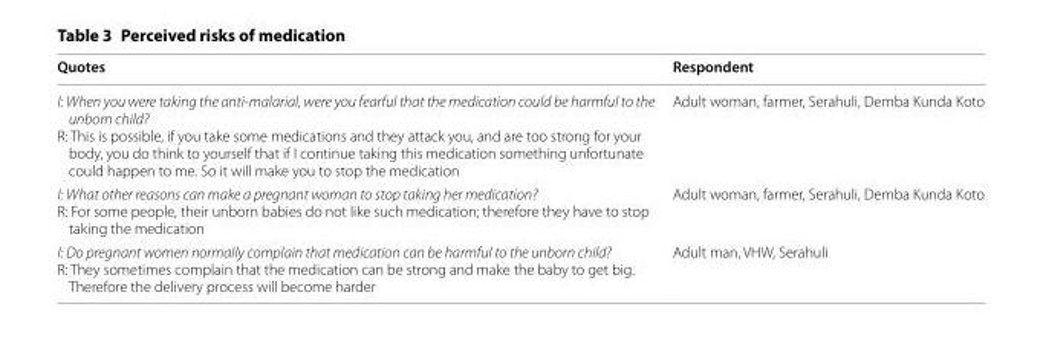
<table><thead><tr><td>Quotes</td><td>Respondent</td></tr></thead><tbody><tr><td>I: When you were taking the anti-malarial, were you fearful that the medication could be harmful to the unborn child? R: This is possible, if you take some medications and they attack you, and are too strong for your body, you do think to yourself that if I continue taking this medication something unfortunate could happen to me. So it will make you to stop the medication</td><td>Adult woman, farmer, Serahuli, Demba Kunda Koto</td></tr><tr><td>I: What other reasons can make a pregnant woman to stop taking her medication? R: For some people, their unborn babies do not like such medication; therefore they have to stop taking the medication</td><td>Adult woman, farmer, Serahuli, Demba Kunda Koto</td></tr><tr><td>I: Do pregnant women normally complain that medication can be harmful to the unborn child? R: They sometimes complain that the medication can be strong and make the baby to get big. Therefore the delivery process will become harder</td><td>Adult man, VHW, Serahuli</td></tr></tbody></table>